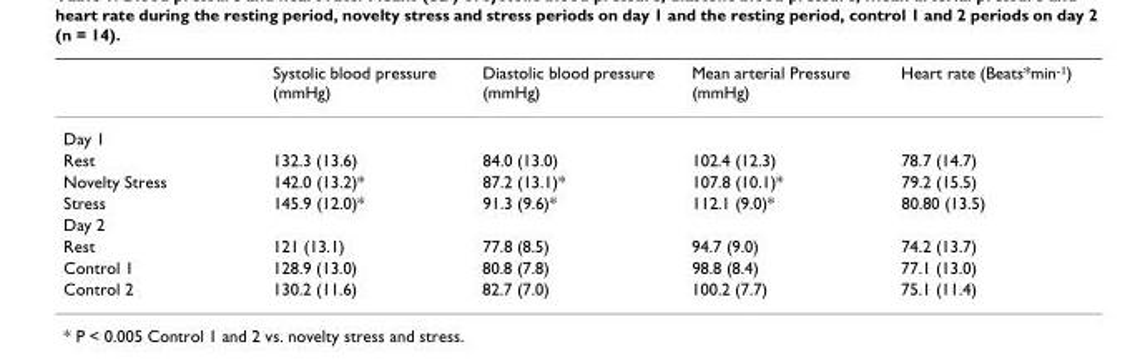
<table><thead><tr><td></td><td>Systolic blood pressure (mmHg)</td><td>Diastolic blood pressure (mmHg)</td><td>Mean arterial Pressure (mmHg)</td><td>Heart rate (Beats*min<sup>-1</sup>)</td></tr></thead><tbody><tr><td colspan="5">Day 1</td></tr><tr><td>Rest</td><td>132.3 (13.6)</td><td>84.0 (13.0)</td><td>102.4 (12.3)</td><td>78.7 (14.7)</td></tr><tr><td>Novelty Stress</td><td>142.0 (13.2)*</td><td>87.2 (13.1)*</td><td>107.8 (10.1)*</td><td>79.2 (15.5)</td></tr><tr><td>Stress</td><td>145.9 (12.0)*</td><td>91.3 (9.6)*</td><td>112.1 (9.0)*</td><td>80.80 (13.5)</td></tr><tr><td colspan="5">Day 2</td></tr><tr><td>Rest</td><td>121 (13.1)</td><td>77.8 (8.5)</td><td>94.7 (9.0)</td><td>74.2 (13.7)</td></tr><tr><td>Control 1</td><td>128.9 (13.0)</td><td>80.8 (7.8)</td><td>98.8 (8.4)</td><td>77.1 (13.0)</td></tr><tr><td>Control 2</td><td>130.2 (11.6)</td><td>82.7 (7.0)</td><td>100.2 (7.7)</td><td>75.1 (11.4)</td></tr></tbody></table>